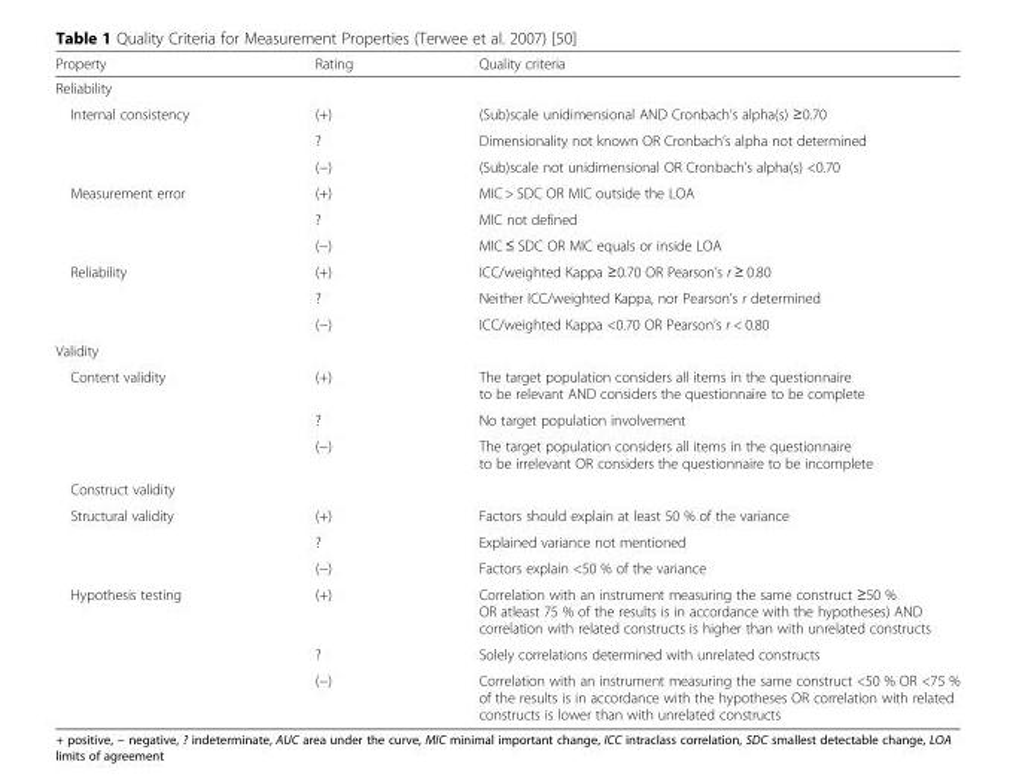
<table><thead><tr><td>Property</td><td>Rating</td><td>Quality criteria</td></tr></thead><tbody><tr><td colspan="3">Reliability</td></tr><tr><td rowspan="3">Internal consistency</td><td>(+)</td><td>(Sub)scale unidimensional AND Cronbach’s alpha(s) ≥0.70</td></tr><tr><td>?</td><td>Dimensionality not known OR Cronbach’s alpha not determined</td></tr><tr><td>(−)</td><td>(Sub)scale not unidimensional OR Cronbach’s alpha(s) &lt;0.70</td></tr><tr><td rowspan="3">Measurement error</td><td>(+)</td><td>MIC &gt; SDC OR MIC outside the LOA</td></tr><tr><td>?</td><td>MIC not defined</td></tr><tr><td>(−)</td><td>MIC ≤ SDC OR MIC equals or inside LOA</td></tr><tr><td rowspan="3">Reliability</td><td>(+)</td><td>ICC/weighted Kappa ≥0.70 OR Pearson’s r ≥ 0.80</td></tr><tr><td>?</td><td>Neither ICC/weighted Kappa, nor Pearson’s r determined</td></tr><tr><td>(−)</td><td>ICC/weighted Kappa &lt;0.70 OR Pearson’s r &lt; 0.80</td></tr><tr><td colspan="3">Validity</td></tr><tr><td rowspan="3">Content validity</td><td>(+)</td><td>The target population considers all items in the questionnaire to be relevant AND considers the questionnaire to be complete</td></tr><tr><td>?</td><td>No target population involvement</td></tr><tr><td>(−)</td><td>The target population considers all items in the questionnaire to be irrelevant OR considers the questionnaire to be incomplete</td></tr><tr><td colspan="3">Construct validity</td></tr><tr><td rowspan="3">Structural validity</td><td>(+)</td><td>Factors should explain at least 50 % of the variance</td></tr><tr><td>?</td><td>Explained variance not mentioned</td></tr><tr><td>(−)</td><td>Factors explain &lt;50 % of the variance</td></tr><tr><td rowspan="3">Hypothesis testing</td><td>(+)</td><td>Correlation with an instrument measuring the same construct ≥50 % OR atleast 75 % of the results is in accordance with the hypotheses) AND correlation with related constructs is higher than with unrelated constructs</td></tr><tr><td>?</td><td>Solely correlations determined with unrelated constructs</td></tr><tr><td>(−)</td><td>Correlation with an instrument measuring the same construct &lt;50 % OR &lt;75 % of the results is in accordance with the hypotheses OR correlation with related constructs is lower than with unrelated constructs</td></tr></tbody></table>